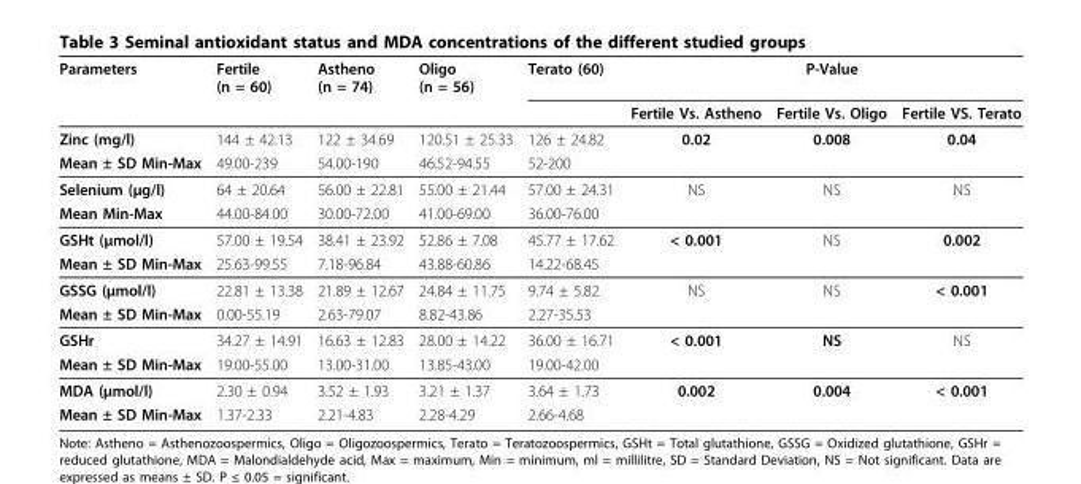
<table><thead><tr><td rowspan="2">Parameters</td><td rowspan="2">Fertile (n = 60)</td><td rowspan="2">Astheno (n = 74)</td><td rowspan="2">Oligo (n = 56)</td><td rowspan="2">Terato (60)</td><td rowspan="2">Fertile Vs. Astheno</td><td rowspan="2">P-Value Fertile Vs. Oligo</td><td rowspan="2">Fertile VS. Terato</td></tr><tr></tr></thead><tbody><tr><td>Zinc (mg/l)</td><td>144 ± 42.13</td><td>122 ± 34.69</td><td>120.51 ± 25.33</td><td>126 ± 24.82</td><td>0.02</td><td>0.008</td><td>0.04</td></tr><tr><td>Mean ± SD Min-Max</td><td>49.00-239</td><td>54.00-190</td><td>46.52-94.55</td><td>52-200</td><td></td><td></td><td></td></tr><tr><td>Selenium (μg/l)</td><td>64 ± 20.64</td><td>56.00 ± 22.81</td><td>55.00 ± 21.44</td><td>57.00 ± 24.31</td><td>NS</td><td>NS</td><td>NS</td></tr><tr><td>Mean Min-Max</td><td>44.00-84.00</td><td>30.00-72.00</td><td>41.00-69.00</td><td>36.00-76.00</td><td></td><td></td><td></td></tr><tr><td>GSHt (μmol/l)</td><td>57.00 ± 19.54</td><td>38.41 ± 23.92</td><td>52.86 ± 7.08</td><td>45.77 ± 17.62</td><td>&lt; 0.001</td><td>NS</td><td>0.002</td></tr><tr><td>Mean ± SD Min-Max</td><td>25.63-99.55</td><td>7.18-96.84</td><td>43.88-60.86</td><td>14.22-68.45</td><td></td><td></td><td></td></tr><tr><td>GSSG (μmol/l)</td><td>22.81 ± 13.38</td><td>21.89 ± 12.67</td><td>24.84 ± 11.75</td><td>9.74 ± 5.82</td><td>NS</td><td>NS</td><td>&lt; 0.001</td></tr><tr><td>Mean ± SD Min-Max</td><td>0.00-55.19</td><td>2.63-79.07</td><td>8.82-43.86</td><td>2.27-35.53</td><td></td><td></td><td></td></tr><tr><td>GSHr</td><td>34.27 ± 14.91</td><td>16.63 ± 12.83</td><td>28.00 ± 14.22</td><td>36.00 ± 16.71</td><td>&lt; 0.001</td><td>NS</td><td>NS</td></tr><tr><td>Mean ± SD Min-Max</td><td>19.00-55.00</td><td>13.00-31.00</td><td>13.85-43.00</td><td>19.00-42.00</td><td></td><td></td><td></td></tr><tr><td>MDA (μmol/l)</td><td>2.30 ± 0.94</td><td>3.52 ± 1.93</td><td>3.21 ± 1.37</td><td>3.64 ± 1.73</td><td>0.002</td><td>0.004</td><td>&lt; 0.001</td></tr><tr><td>Mean ± SD Min-Max</td><td>1.37-2.33</td><td>2.21-4.83</td><td>2.28-4.29</td><td>2.66-4.68</td><td></td><td></td><td></td></tr></tbody></table>